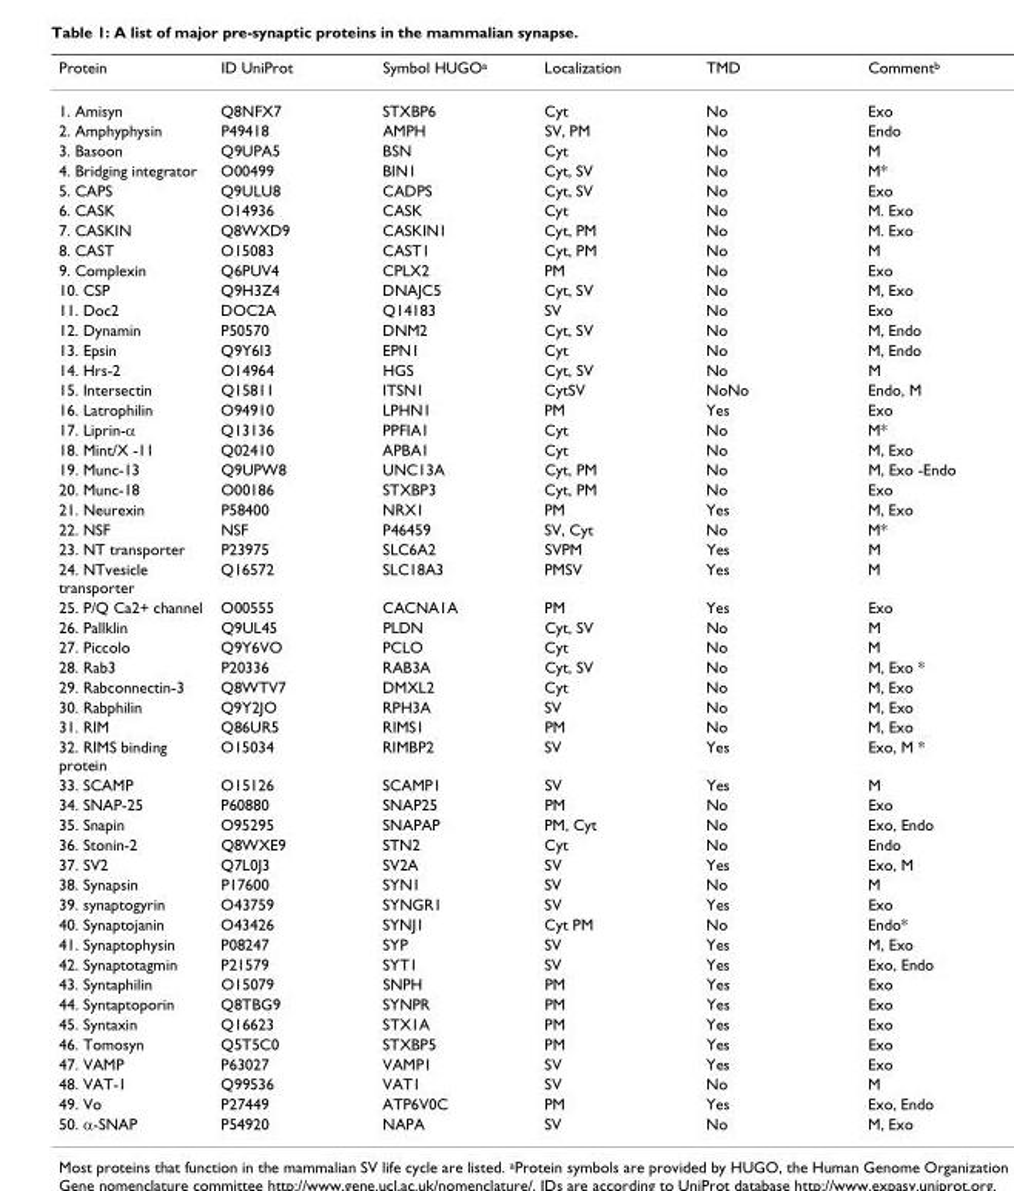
<table><thead><tr><td>Protein</td><td>ID UniProt</td><td>Symbol HUGOa</td><td>Localization</td><td>TMD</td><td>Commentb</td></tr></thead><tbody><tr><td>1. Amisyn</td><td>Q8NFX7</td><td>STXBP6</td><td>Cyt</td><td>No</td><td>Exo</td></tr><tr><td>2. Amphyphysin</td><td>P49418</td><td>AMPH</td><td>SV, PM</td><td>No</td><td>Endo</td></tr><tr><td>3. Basoon</td><td>Q9UPA5</td><td>BSN</td><td>Cyt</td><td>No</td><td>M</td></tr><tr><td>4. Bridging integrator</td><td>O00499</td><td>BIN1</td><td>Cyt, SV</td><td>No</td><td>M*</td></tr><tr><td>5. CAPS</td><td>Q9ULU8</td><td>CADPS</td><td>Cyt, SV</td><td>No</td><td>Exo</td></tr><tr><td>6. CASK</td><td>O14936</td><td>CASK</td><td>Cyt</td><td>No</td><td>M. Exo</td></tr><tr><td>7. CASKIN</td><td>Q8WXD9</td><td>CASKIN1</td><td>Cyt, PM</td><td>No</td><td>M. Exo</td></tr><tr><td>8. CAST</td><td>O15083</td><td>CAST1</td><td>Cyt, PM</td><td>No</td><td>M</td></tr><tr><td>9. Complexin</td><td>Q6PUV4</td><td>CPLX2</td><td>PM</td><td>No</td><td>Exo</td></tr><tr><td>10. CSP</td><td>Q9H3Z4</td><td>DNAJC5</td><td>Cyt, SV</td><td>No</td><td>M, Exo</td></tr><tr><td>11. Doc2</td><td>DOC2A</td><td>Q14183</td><td>SV</td><td>No</td><td>Exo</td></tr><tr><td>12. Dynamin</td><td>P50570</td><td>DNM2</td><td>Cyt, SV</td><td>No</td><td>M, Endo</td></tr><tr><td>13. Epsin</td><td>Q9Y6I3</td><td>EPN1</td><td>Cyt</td><td>No</td><td>M, Endo</td></tr><tr><td>14. Hrs-2</td><td>O14964</td><td>HGS</td><td>Cyt, SV</td><td>No</td><td>M</td></tr><tr><td>15. Intersectin</td><td>Q15811</td><td>ITSN1</td><td>CytSV</td><td>NoNo</td><td>Endo, M</td></tr><tr><td>16. Latrophilin</td><td>O94910</td><td>LPHN1</td><td>PM</td><td>Yes</td><td>Exo</td></tr><tr><td>17. Liprin-α</td><td>Q13136</td><td>PPFIA1</td><td>Cyt</td><td>No</td><td>M*</td></tr><tr><td>18. Mint/X -11</td><td>Q02410</td><td>APBA1</td><td>Cyt</td><td>No</td><td>M, Exo</td></tr><tr><td>19. Munc-13</td><td>Q9UPW8</td><td>UNC13A</td><td>Cyt, PM</td><td>No</td><td>M, Exo -Endo</td></tr><tr><td>20. Munc-18</td><td>O00186</td><td>STXBP3</td><td>Cyt, PM</td><td>No</td><td>Exo</td></tr><tr><td>21. Neurexin</td><td>P58400</td><td>NRX1</td><td>PM</td><td>Yes</td><td>M, Exo</td></tr><tr><td>22. NSF</td><td>NSF</td><td>P46459</td><td>SV, Cyt</td><td>No</td><td>M*</td></tr><tr><td>23. NT transporter</td><td>P23975</td><td>SLC6A2</td><td>SVPM</td><td>Yes</td><td>M</td></tr><tr><td>24. NTvesicle transporter</td><td>Q16572</td><td>SLC18A3</td><td>PMSV</td><td>Yes</td><td>M</td></tr><tr><td>25. P/Q Ca2+ channel</td><td>O00555</td><td>CACNA1A</td><td>PM</td><td>Yes</td><td>Exo</td></tr><tr><td>26. Pallklin</td><td>Q9UL45</td><td>PLDN</td><td>Cyt, SV</td><td>No</td><td>M</td></tr><tr><td>27. Piccolo</td><td>Q9Y6VO</td><td>PCLO</td><td>Cyt</td><td>No</td><td>M</td></tr><tr><td>28. Rab3</td><td>P20336</td><td>RAB3A</td><td>Cyt, SV</td><td>No</td><td>M, Exo *</td></tr><tr><td>29. Rabconnectin-3</td><td>Q8WTV7</td><td>DMXL2</td><td>Cyt</td><td>No</td><td>M, Exo</td></tr><tr><td>30. Rabphilin</td><td>Q9Y2JO</td><td>RPH3A</td><td>SV</td><td>No</td><td>M, Exo</td></tr><tr><td>31. RIM</td><td>Q86UR5</td><td>RIMS1</td><td>PM</td><td>No</td><td>M, Exo</td></tr><tr><td>32. RIMS binding protein</td><td>O15034</td><td>RIMBP2</td><td>SV</td><td>Yes</td><td>Exo, M *</td></tr><tr><td>33. SCAMP</td><td>O15126</td><td>SCAMP1</td><td>SV</td><td>Yes</td><td>M</td></tr><tr><td>34. SNAP-25</td><td>P60880</td><td>SNAP25</td><td>PM</td><td>No</td><td>Exo</td></tr><tr><td>35. Snapin</td><td>O95295</td><td>SNAPAP</td><td>PM, Cyt</td><td>No</td><td>Exo, Endo</td></tr><tr><td>36. Stonin-2</td><td>Q8WXE9</td><td>STN2</td><td>Cyt</td><td>No</td><td>Endo</td></tr><tr><td>37. SV2</td><td>Q7L0J3</td><td>SV2A</td><td>SV</td><td>Yes</td><td>Exo, M</td></tr><tr><td>38. Synapsin</td><td>P17600</td><td>SYN1</td><td>SV</td><td>No</td><td>M</td></tr><tr><td>39. synaptogyrin</td><td>O43759</td><td>SYNGR1</td><td>SV</td><td>Yes</td><td>Exo</td></tr><tr><td>40. Synaptojanin</td><td>O43426</td><td>SYNJ1</td><td>Cyt PM</td><td>No</td><td>Endo*</td></tr><tr><td>41. Synaptophysin</td><td>P08247</td><td>SYP</td><td>SV</td><td>Yes</td><td>M, Exo</td></tr><tr><td>42. Synaptotagmin</td><td>P21579</td><td>SYT1</td><td>SV</td><td>Yes</td><td>Exo, Endo</td></tr><tr><td>43. Syntaphilin</td><td>O15079</td><td>SNPH</td><td>PM</td><td>Yes</td><td>Exo</td></tr><tr><td>44. Syntaptoporin</td><td>Q8TBG9</td><td>SYNPR</td><td>PM</td><td>Yes</td><td>Exo</td></tr><tr><td>45. Syntaxin</td><td>Q16623</td><td>STX1A</td><td>PM</td><td>Yes</td><td>Exo</td></tr><tr><td>46. Tomosyn</td><td>Q5T5C0</td><td>STXBP5</td><td>PM</td><td>Yes</td><td>Exo</td></tr><tr><td>47. VAMP</td><td>P63027</td><td>VAMP1</td><td>SV</td><td>Yes</td><td>Exo</td></tr><tr><td>48. VAT-1</td><td>Q99536</td><td>VAT1</td><td>SV</td><td>No</td><td>M</td></tr><tr><td>49. Vo</td><td>P27449</td><td>ATP6V0C</td><td>PM</td><td>Yes</td><td>Exo, Endo</td></tr><tr><td>50. α-SNAP</td><td>P54920</td><td>NAPA</td><td>SV</td><td>No</td><td>M, Exo</td></tr></tbody></table>